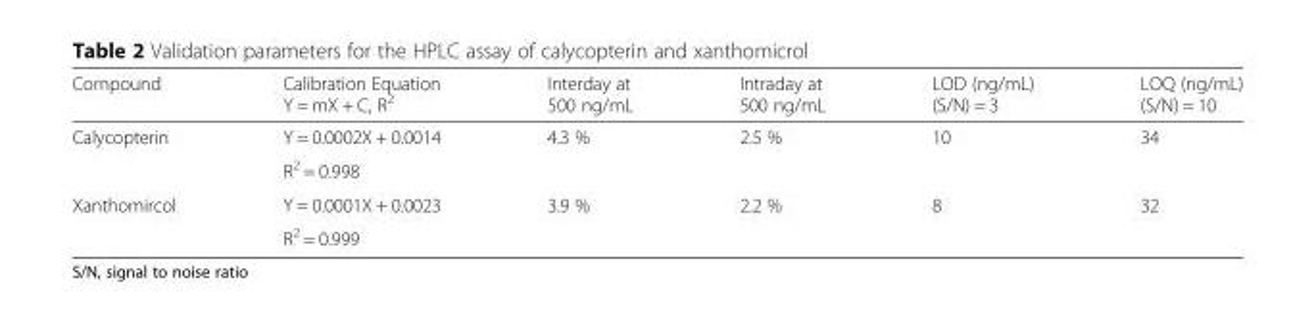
<table><thead><tr><td>Compound</td><td>Calibration Equation Y = mX + C, R<sup>2</sup></td><td>Interday at 500 ng/mL</td><td>Intraday at 500 ng/mL</td><td>LOD (ng/mL) (S/N) = 3</td><td>LOQ (ng/mL) (S/N) = 10</td></tr></thead><tbody><tr><td rowspan="2">Calycopterin</td><td>Y = 0.0002X + 0.0014</td><td rowspan="2">4.3 %</td><td rowspan="2">2.5 %</td><td rowspan="2">10</td><td rowspan="2">34</td></tr><tr><td>R<sup>2</sup> = 0.998</td></tr><tr><td rowspan="2">Xanthomircol</td><td>Y = 0.0001X + 0.0023</td><td rowspan="2">3.9 %</td><td rowspan="2">2.2 %</td><td rowspan="2">8</td><td rowspan="2">32</td></tr><tr><td>R<sup>2</sup> = 0.999</td></tr></tbody></table>